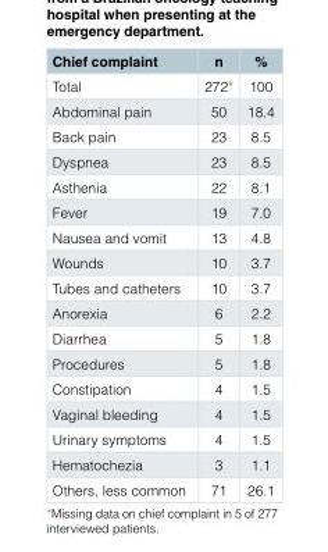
<table><thead><tr><td>Chief complaint</td><td>n</td><td>%</td></tr></thead><tbody><tr><td>Total</td><td>272*</td><td>100</td></tr><tr><td>Abdominal pain</td><td>50</td><td>18.4</td></tr><tr><td>Back pain</td><td>23</td><td>8.5</td></tr><tr><td>Dyspnea</td><td>23</td><td>8.5</td></tr><tr><td>Asthenia</td><td>22</td><td>8.1</td></tr><tr><td>Fever</td><td>19</td><td>7.0</td></tr><tr><td>Nausea and vomit</td><td>13</td><td>4.8</td></tr><tr><td>Wounds</td><td>10</td><td>3.7</td></tr><tr><td>Tubes and catheters</td><td>10</td><td>3.7</td></tr><tr><td>Anorexia</td><td>6</td><td>2.2</td></tr><tr><td>Diarrhea</td><td>5</td><td>1.8</td></tr><tr><td>Procedures</td><td>5</td><td>1.8</td></tr><tr><td>Constipation</td><td>4</td><td>1.5</td></tr><tr><td>Vaginal bleeding</td><td>4</td><td>1.5</td></tr><tr><td>Urinary symptoms</td><td>4</td><td>1.5</td></tr><tr><td>Hematochezia</td><td>3</td><td>1.1</td></tr><tr><td>Others, less common</td><td>71</td><td>26.1</td></tr></tbody></table>